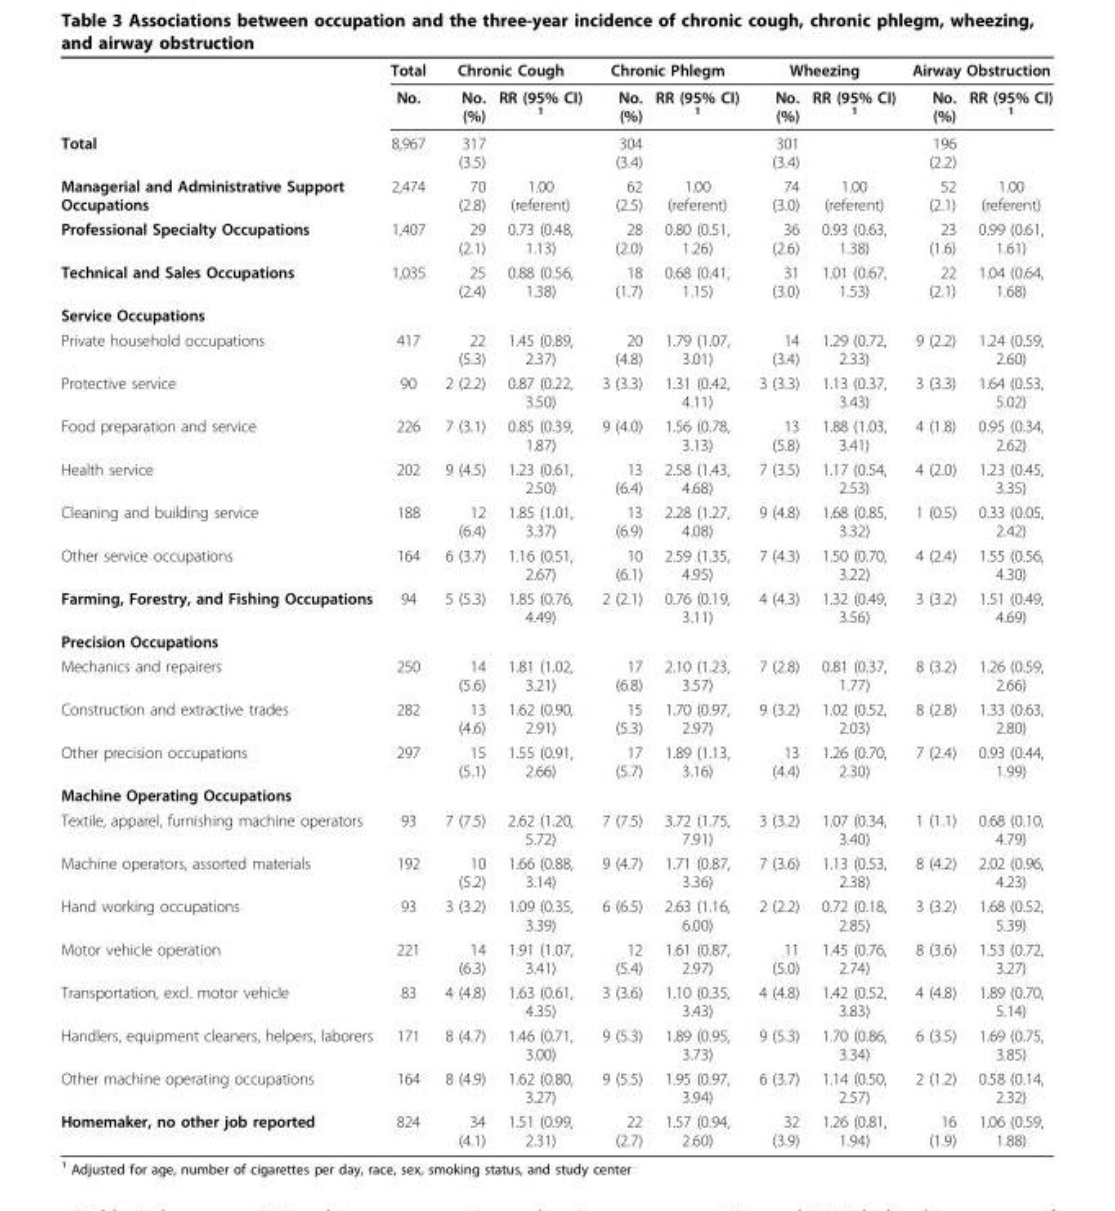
<table><thead><tr><td rowspan="2"></td><td rowspan="2">Total No.</td><td colspan="2">Chronic Cough</td><td colspan="2">Chronic Phlegm</td><td colspan="2">Wheezing</td><td colspan="2">Airway Obstruction</td></tr><tr><td>No. (%)</td><td>RR (95% CI) <sup>1</sup></td><td>No. (%)</td><td>RR (95% CI) <sup>1</sup></td><td>No. (%)</td><td>RR (95% CI) <sup>1</sup></td><td>No. (%)</td><td>RR (95% CI) <sup>1</sup></td></tr></thead><tbody><tr><td>Total</td><td>8,967</td><td>317 (3.5)</td><td></td><td>304 (3.4)</td><td></td><td>301 (3.4)</td><td></td><td>196 (2.2)</td><td></td></tr><tr><td>Managerial and Administrative Support Occupations</td><td>2,474</td><td>70 (2.8)</td><td>1.00 (referent)</td><td>62 (2.5)</td><td>1.00 (referent)</td><td>74 (3.0)</td><td>1.00 (referent)</td><td>52 (2.1)</td><td>1.00 (referent)</td></tr><tr><td>Professional Specialty Occupations</td><td>1,407</td><td>29 (2.1)</td><td>0.73 (0.48, 1.13)</td><td>28 (2.0)</td><td>0.80 (0.51, 1.26)</td><td>36 (2.6)</td><td>0.93 (0.63, 1.38)</td><td>23 (1.6)</td><td>0.99 (0.61, 1.61)</td></tr><tr><td>Technical and Sales Occupations</td><td>1,035</td><td>25 (2.4)</td><td>0.88 (0.56, 1.38)</td><td>18 (1.7)</td><td>0.68 (0.41, 1.15)</td><td>31 (3.0)</td><td>1.01 (0.67, 1.53)</td><td>22 (2.1)</td><td>1.04 (0.64, 1.68)</td></tr><tr><td colspan="10">Service Occupations</td></tr><tr><td>Private household occupations</td><td>417</td><td>22 (5.3)</td><td>1.45 (0.89, 2.37)</td><td>20 (4.8)</td><td>1.79 (1.07, 3.01)</td><td>14 (3.4)</td><td>1.29 (0.72, 2.33)</td><td>9 (2.2)</td><td>1.24 (0.59, 2.60)</td></tr><tr><td>Protective service</td><td>90</td><td>2 (2.2)</td><td>0.87 (0.22, 3.50)</td><td>3 (3.3)</td><td>1.31 (0.42, 4.11)</td><td>3 (3.3)</td><td>1.13 (0.37, 3.43)</td><td>3 (3.3)</td><td>1.64 (0.53, 5.02)</td></tr><tr><td>Food preparation and service</td><td>226</td><td>7 (3.1)</td><td>0.85 (0.39, 1.87)</td><td>9 (4.0)</td><td>1.56 (0.78, 3.13)</td><td>13 (5.8)</td><td>1.88 (1.03, 3.41)</td><td>4 (1.8)</td><td>0.95 (0.34, 2.62)</td></tr><tr><td>Health service</td><td>202</td><td>9 (4.5)</td><td>1.23 (0.61, 2.50)</td><td>13 (6.4)</td><td>2.58 (1.43, 4.68)</td><td>7 (3.5)</td><td>1.17 (0.54, 2.53)</td><td>4 (2.0)</td><td>1.23 (0.45, 3.35)</td></tr><tr><td>Cleaning and building service</td><td>188</td><td>12 (6.4)</td><td>1.85 (1.01, 3.37)</td><td>13 (6.9)</td><td>2.28 (1.27, 4.08)</td><td>9 (4.8)</td><td>1.68 (0.85, 3.32)</td><td>1 (0.5)</td><td>0.33 (0.05, 2.42)</td></tr><tr><td>Other service occupations</td><td>164</td><td>6 (3.7)</td><td>1.16 (0.51, 2.67)</td><td>10 (6.1)</td><td>2.59 (1.35, 4.95)</td><td>7 (4.3)</td><td>1.50 (0.70, 3.22)</td><td>4 (2.4)</td><td>1.55 (0.56, 4.30)</td></tr><tr><td>Farming, Forestry, and Fishing Occupations</td><td>94</td><td>5 (5.3)</td><td>1.85 (0.76, 4.49)</td><td>2 (2.1)</td><td>0.76 (0.19, 3.11)</td><td>4 (4.3)</td><td>1.32 (0.49, 3.56)</td><td>3 (3.2)</td><td>1.51 (0.49, 4.69)</td></tr><tr><td colspan="10">Precision Occupations</td></tr><tr><td>Mechanics and repairers</td><td>250</td><td>14 (5.6)</td><td>1.81 (1.02, 3.21)</td><td>17 (6.8)</td><td>2.10 (1.23, 3.57)</td><td>7 (2.8)</td><td>0.81 (0.37, 1.77)</td><td>8 (3.2)</td><td>1.26 (0.59, 2.66)</td></tr><tr><td>Construction and extractive trades</td><td>282</td><td>13 (4.6)</td><td>1.62 (0.90, 2.91)</td><td>15 (5.3)</td><td>1.70 (0.97, 2.97)</td><td>9 (3.2)</td><td>1.02 (0.52, 2.03)</td><td>8 (2.8)</td><td>1.33 (0.63, 2.80)</td></tr><tr><td>Other precision occupations</td><td>297</td><td>15 (5.1)</td><td>1.55 (0.91, 2.66)</td><td>17 (5.7)</td><td>1.89 (1.13, 3.16)</td><td>13 (4.4)</td><td>1.26 (0.70, 2.30)</td><td>7 (2.4)</td><td>0.93 (0.44, 1.99)</td></tr><tr><td colspan="10">Machine Operating Occupations</td></tr><tr><td>Textile, apparel, furnishing machine operators</td><td>93</td><td>7 (7.5)</td><td>2.62 (1.20, 5.72)</td><td>7 (7.5)</td><td>3.72 (1.75, 7.91)</td><td>3 (3.2)</td><td>1.07 (0.34, 3.40)</td><td>1 (1.1)</td><td>0.68 (0.10, 4.79)</td></tr><tr><td>Machine operators, assorted materials</td><td>192</td><td>10 (5.2)</td><td>1.66 (0.88, 3.14)</td><td>9 (4.7)</td><td>1.71 (0.87, 3.36)</td><td>7 (3.6)</td><td>1.13 (0.53, 2.38)</td><td>8 (4.2)</td><td>2.02 (0.96, 4.23)</td></tr><tr><td>Hand working occupations</td><td>93</td><td>3 (3.2)</td><td>1.09 (0.35, 3.39)</td><td>6 (6.5)</td><td>2.63 (1.16, 6.00)</td><td>2 (2.2)</td><td>0.72 (0.18, 2.85)</td><td>3 (3.2)</td><td>1.68 (0.52, 5.39)</td></tr><tr><td>Motor vehicle operation</td><td>221</td><td>14 (6.3)</td><td>1.91 (1.07, 3.41)</td><td>12 (5.4)</td><td>1.61 (0.87, 2.97)</td><td>11 (5.0)</td><td>1.45 (0.76, 2.74)</td><td>8 (3.6)</td><td>1.53 (0.72, 3.27)</td></tr><tr><td>Transportation, excl. motor vehicle</td><td>83</td><td>4 (4.8)</td><td>1.63 (0.61, 4.35)</td><td>3 (3.6)</td><td>1.10 (0.35, 3.43)</td><td>4 (4.8)</td><td>1.42 (0.52, 3.83)</td><td>4 (4.8)</td><td>1.89 (0.70, 5.14)</td></tr><tr><td>Handlers, equipment cleaners, helpers, laborers</td><td>171</td><td>8 (4.7)</td><td>1.46 (0.71, 3.00)</td><td>9 (5.3)</td><td>1.89 (0.95, 3.73)</td><td>9 (5.3)</td><td>1.70 (0.86, 3.34)</td><td>6 (3.5)</td><td>1.69 (0.75, 3.85)</td></tr><tr><td>Other machine operating occupations</td><td>164</td><td>8 (4.9)</td><td>1.62 (0.80, 3.27)</td><td>9 (5.5)</td><td>1.95 (0.97, 3.94)</td><td>6 (3.7)</td><td>1.14 (0.50, 2.57)</td><td>2 (1.2)</td><td>0.58 (0.14, 2.32)</td></tr><tr><td>Homemaker, no other job reported</td><td>824</td><td>34 (4.1)</td><td>1.51 (0.99, 2.31)</td><td>22 (2.7)</td><td>1.57 (0.94, 2.60)</td><td>32 (3.9)</td><td>1.26 (0.81, 1.94)</td><td>16 (1.9)</td><td>1.06 (0.59, 1.88)</td></tr></tbody></table>